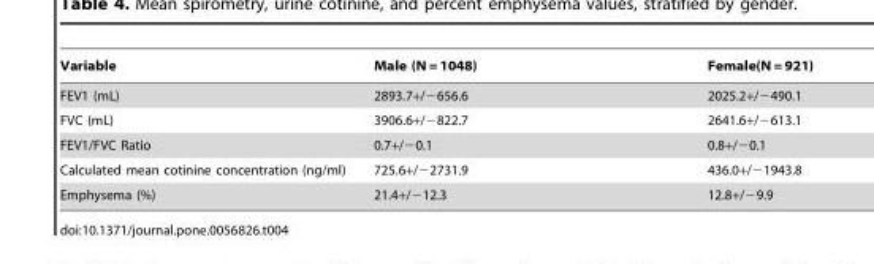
<table><thead><tr><td>Variable</td><td>Male (N = 1048)</td><td>Female(N = 921)</td></tr></thead><tbody><tr><td>FEV1 (mL)</td><td>2893.7+/−656.6</td><td>2025.2+/−490.1</td></tr><tr><td>FVC (mL)</td><td>3906.6+/−822.7</td><td>2641.6+/−613.1</td></tr><tr><td>FEV1/FVC Ratio</td><td>0.7+/−0.1</td><td>0.8+/−0.1</td></tr><tr><td>Calculated mean cotinine concentration (ng/ml)</td><td>725.6+/−2731.9</td><td>436.0+/−1943.8</td></tr><tr><td>Emphysema (%)</td><td>21.4+/−12.3</td><td>12.8+/−9.9</td></tr></tbody></table>